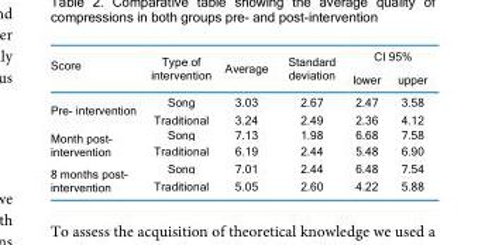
<table><thead><tr><td rowspan="2">Score</td><td rowspan="2">Type of intervention</td><td rowspan="2">Average</td><td rowspan="2">Standard deviation</td><td colspan="2">CI 95%</td></tr><tr><td>lower</td><td>upper</td></tr></thead><tbody><tr><td rowspan="2">Pre- intervention</td><td>Song</td><td>3.03</td><td>2.67</td><td>2.47</td><td>3.58</td></tr><tr><td>Traditional</td><td>3.24</td><td>2.49</td><td>2.36</td><td>4.12</td></tr><tr><td rowspan="2">Month post- intervention</td><td>Song</td><td>7.13</td><td>1.98</td><td>6.68</td><td>7.58</td></tr><tr><td>Traditional</td><td>6.19</td><td>2.44</td><td>5.48</td><td>6.90</td></tr><tr><td rowspan="2">8 months post- intervention</td><td>Song</td><td>7.01</td><td>2.44</td><td>6.48</td><td>7.54</td></tr><tr><td>Traditional</td><td>5.05</td><td>2.60</td><td>4.22</td><td>5.88</td></tr></tbody></table>